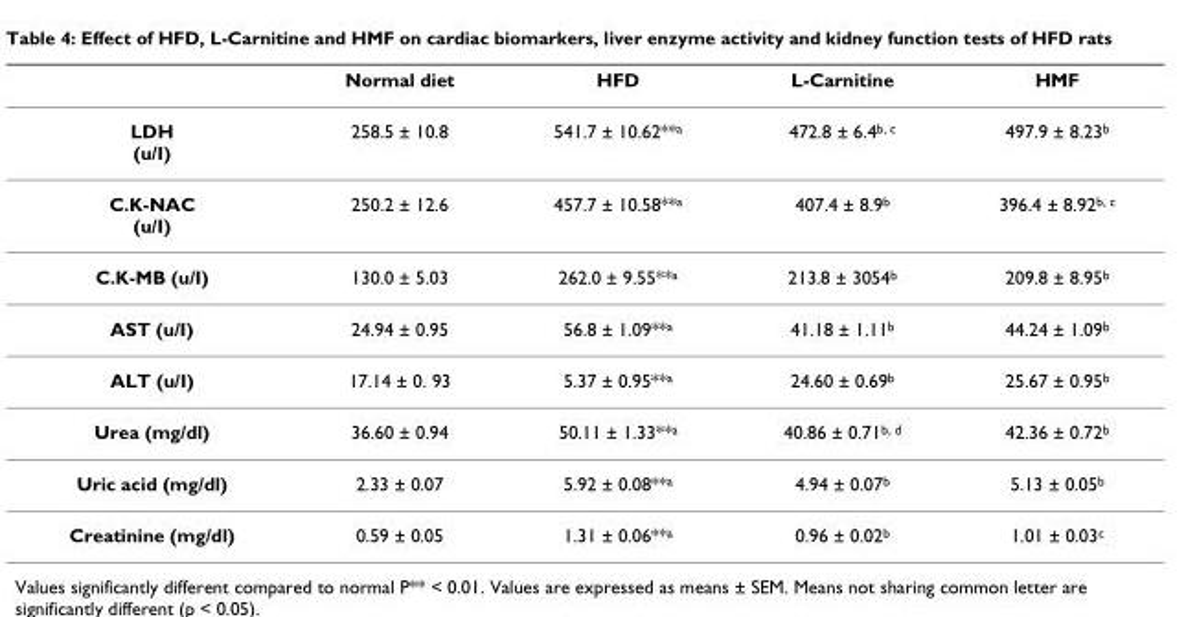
<table><thead><tr><td></td><td>Normal diet</td><td>HFD</td><td>L-Carnitine</td><td>HMF</td></tr></thead><tbody><tr><td>LDH (u/I)</td><td>258.5 ± 10.8</td><td>541.7 ± 10.62**<sup>a</sup></td><td>472.8 ± 6.4<sup>b, c</sup></td><td>497.9 ± 8.23<sup>b</sup></td></tr><tr><td>C.K-NAC (u/I)</td><td>250.2 ± 12.6</td><td>457.7 ± 10.58**<sup>a</sup></td><td>407.4 ± 8.9<sup>b</sup></td><td>396.4 ± 8.92<sup>b, c</sup></td></tr><tr><td>C.K-MB (u/I)</td><td>130.0 ± 5.03</td><td>262.0 ± 9.55**<sup>a</sup></td><td>213.8 ± 3054<sup>b</sup></td><td>209.8 ± 8.95<sup>b</sup></td></tr><tr><td>AST (u/I)</td><td>24.94 ± 0.95</td><td>56.8 ± 1.09**<sup>a</sup></td><td>41.18 ± 1.11<sup>b</sup></td><td>44.24 ± 1.09<sup>b</sup></td></tr><tr><td>ALT (u/I)</td><td>17.14 ± 0. 93</td><td>5.37 ± 0.95**<sup>a</sup></td><td>24.60 ± 0.69<sup>b</sup></td><td>25.67 ± 0.95<sup>b</sup></td></tr><tr><td>Urea (mg/dl)</td><td>36.60 ± 0.94</td><td>50.11 ± 1.33**<sup>a</sup></td><td>40.86 ± 0.71<sup>b, d</sup></td><td>42.36 ± 0.72<sup>b</sup></td></tr><tr><td>Uric acid (mg/dl)</td><td>2.33 ± 0.07</td><td>5.92 ± 0.08**<sup>a</sup></td><td>4.94 ± 0.07<sup>b</sup></td><td>5.13 ± 0.05<sup>b</sup></td></tr><tr><td>Creatinine (mg/dl)</td><td>0.59 ± 0.05</td><td>1.31 ± 0.06**<sup>a</sup></td><td>0.96 ± 0.02<sup>b</sup></td><td>1.01 ± 0.03<sup>c</sup></td></tr></tbody></table>